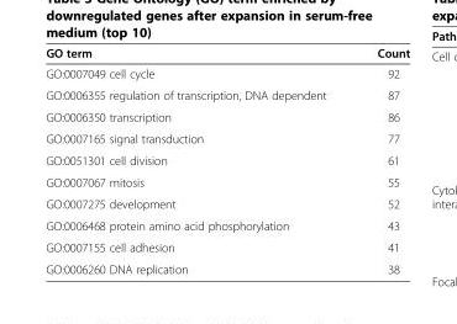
<table><thead><tr><td>GO term</td><td>Count</td></tr></thead><tbody><tr><td>GO:0007049 cell cycle</td><td>92</td></tr><tr><td>GO:0006355 regulation of transcription, DNA dependent</td><td>87</td></tr><tr><td>GO:0006350 transcription</td><td>86</td></tr><tr><td>GO:0007165 signal transduction</td><td>77</td></tr><tr><td>GO:0051301 cell division</td><td>61</td></tr><tr><td>GO:0007067 mitosis</td><td>55</td></tr><tr><td>GO:0007275 development</td><td>52</td></tr><tr><td>GO:0006468 protein amino acid phosphorylation</td><td>43</td></tr><tr><td>GO:0007155 cell adhesion</td><td>41</td></tr><tr><td>GO:0006260 DNA replication</td><td>38</td></tr></tbody></table>